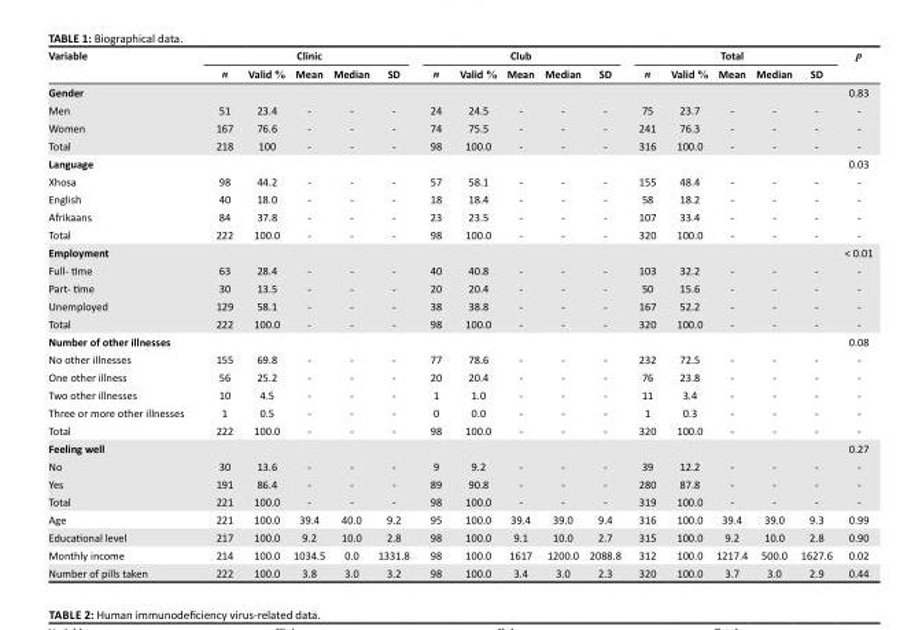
<table><thead><tr><td rowspan="2">Variable</td><td colspan="5">Clinic</td><td colspan="5">Club</td><td colspan="5">Total</td><td rowspan="2">p</td></tr><tr><td>n</td><td>Valid %</td><td>Mean</td><td>Median</td><td>SD</td><td>n</td><td>Valid %</td><td>Mean</td><td>Median</td><td>SD</td><td>n</td><td>Valid %</td><td>Mean</td><td>Median</td><td>SD</td></tr></thead><tbody><tr><td colspan="16">Gender</td><td>0.83</td></tr><tr><td>Men</td><td>51</td><td>23.4</td><td>-</td><td>-</td><td>-</td><td>24</td><td>24.5</td><td>-</td><td>-</td><td>-</td><td>75</td><td>23.7</td><td>-</td><td>-</td><td>-</td><td>-</td></tr><tr><td>Women</td><td>167</td><td>76.6</td><td>-</td><td>-</td><td>-</td><td>74</td><td>75.5</td><td>-</td><td>-</td><td>-</td><td>241</td><td>76.3</td><td>-</td><td>-</td><td>-</td><td>-</td></tr><tr><td>Total</td><td>218</td><td>100</td><td>-</td><td>-</td><td>-</td><td>98</td><td>100.0</td><td>-</td><td>-</td><td>-</td><td>316</td><td>100.0</td><td>-</td><td>-</td><td>-</td><td>-</td></tr><tr><td colspan="16">Language</td><td>0.03</td></tr><tr><td>Xhosa</td><td>98</td><td>44.2</td><td>-</td><td>-</td><td>-</td><td>57</td><td>58.1</td><td>-</td><td>-</td><td>-</td><td>155</td><td>48.4</td><td>-</td><td>-</td><td>-</td><td>-</td></tr><tr><td>English</td><td>40</td><td>18.0</td><td>-</td><td>-</td><td>-</td><td>18</td><td>18.4</td><td>-</td><td>-</td><td>-</td><td>58</td><td>18.2</td><td>-</td><td>-</td><td>-</td><td>-</td></tr><tr><td>Afrikaans</td><td>84</td><td>37.8</td><td>-</td><td>-</td><td>-</td><td>23</td><td>23.5</td><td>-</td><td>-</td><td>-</td><td>107</td><td>33.4</td><td>-</td><td>-</td><td>-</td><td>-</td></tr><tr><td>Total</td><td>222</td><td>100.0</td><td>-</td><td>-</td><td>-</td><td>98</td><td>100.0</td><td>-</td><td>-</td><td>-</td><td>320</td><td>100.0</td><td>-</td><td>-</td><td>-</td><td>-</td></tr><tr><td colspan="16">Employment</td><td>&lt; 0.01</td></tr><tr><td>Full- time</td><td>63</td><td>28.4</td><td>-</td><td>-</td><td>-</td><td>40</td><td>40.8</td><td>-</td><td>-</td><td>-</td><td>103</td><td>32.2</td><td>-</td><td>-</td><td>-</td><td>-</td></tr><tr><td>Part- time</td><td>30</td><td>13.5</td><td>-</td><td>-</td><td>-</td><td>20</td><td>20.4</td><td>-</td><td>-</td><td>-</td><td>50</td><td>15.6</td><td>-</td><td>-</td><td>-</td><td>-</td></tr><tr><td>Unemployed</td><td>129</td><td>58.1</td><td>-</td><td>-</td><td>-</td><td>38</td><td>38.8</td><td>-</td><td>-</td><td>-</td><td>167</td><td>52.2</td><td>-</td><td>-</td><td>-</td><td>-</td></tr><tr><td>Total</td><td>222</td><td>100.0</td><td>-</td><td>-</td><td>-</td><td>98</td><td>100.0</td><td>-</td><td>-</td><td>-</td><td>320</td><td>100.0</td><td>-</td><td>-</td><td>-</td><td>-</td></tr><tr><td colspan="16">Number of other illnesses</td><td>0.08</td></tr><tr><td>No other illnesses</td><td>155</td><td>69.8</td><td>-</td><td>-</td><td>-</td><td>77</td><td>78.6</td><td>-</td><td>-</td><td>-</td><td>232</td><td>72.5</td><td>-</td><td>-</td><td>-</td><td>-</td></tr><tr><td>One other illness</td><td>56</td><td>25.2</td><td>-</td><td>-</td><td>-</td><td>20</td><td>20.4</td><td>-</td><td>-</td><td>-</td><td>76</td><td>23.8</td><td>-</td><td>-</td><td>-</td><td>-</td></tr><tr><td>Two other illnesses</td><td>10</td><td>4.5</td><td>-</td><td>-</td><td>-</td><td>1</td><td>1.0</td><td>-</td><td>-</td><td>-</td><td>11</td><td>3.4</td><td>-</td><td>-</td><td>-</td><td>-</td></tr><tr><td>Three or more other illnesses</td><td>1</td><td>0.5</td><td>-</td><td>-</td><td>-</td><td>0</td><td>0.0</td><td>-</td><td>-</td><td>-</td><td>1</td><td>0.3</td><td>-</td><td>-</td><td>-</td><td>-</td></tr><tr><td>Total</td><td>222</td><td>100.0</td><td>-</td><td>-</td><td>-</td><td>98</td><td>100.0</td><td>-</td><td>-</td><td>-</td><td>320</td><td>100.0</td><td>-</td><td>-</td><td>-</td><td>-</td></tr><tr><td colspan="16">Feeling well</td><td>0.27</td></tr><tr><td>No</td><td>30</td><td>13.6</td><td>-</td><td>-</td><td>-</td><td>9</td><td>9.2</td><td>-</td><td>-</td><td>-</td><td>39</td><td>12.2</td><td>-</td><td>-</td><td>-</td><td>-</td></tr><tr><td>Yes</td><td>191</td><td>86.4</td><td>-</td><td>-</td><td>-</td><td>89</td><td>90.8</td><td>-</td><td>-</td><td>-</td><td>280</td><td>87.8</td><td>-</td><td>-</td><td>-</td><td>-</td></tr><tr><td>Total</td><td>221</td><td>100.0</td><td>-</td><td>-</td><td>-</td><td>98</td><td>100.0</td><td>-</td><td>-</td><td>-</td><td>319</td><td>100.0</td><td>-</td><td>-</td><td>-</td><td>-</td></tr><tr><td>Age</td><td>221</td><td>100.0</td><td>39.4</td><td>40.0</td><td>9.2</td><td>95</td><td>100.0</td><td>39.4</td><td>39.0</td><td>9.4</td><td>316</td><td>100.0</td><td>39.4</td><td>39.0</td><td>9.3</td><td>0.99</td></tr><tr><td>Educational level</td><td>217</td><td>100.0</td><td>9.2</td><td>10.0</td><td>2.8</td><td>98</td><td>100.0</td><td>9.1</td><td>10.0</td><td>2.7</td><td>315</td><td>100.0</td><td>9.2</td><td>10.0</td><td>2.8</td><td>0.90</td></tr><tr><td>Monthly income</td><td>214</td><td>100.0</td><td>1034.5</td><td>0.0</td><td>1331.8</td><td>98</td><td>100.0</td><td>1617</td><td>1200.0</td><td>2088.8</td><td>312</td><td>100.0</td><td>1217.4</td><td>500.0</td><td>1627.6</td><td>0.02</td></tr><tr><td>Number of pills taken</td><td>222</td><td>100.0</td><td>3.8</td><td>3.0</td><td>3.2</td><td>98</td><td>100.0</td><td>3.4</td><td>3.0</td><td>2.3</td><td>320</td><td>100.0</td><td>3.7</td><td>3.0</td><td>2.9</td><td>0.44</td></tr></tbody></table>